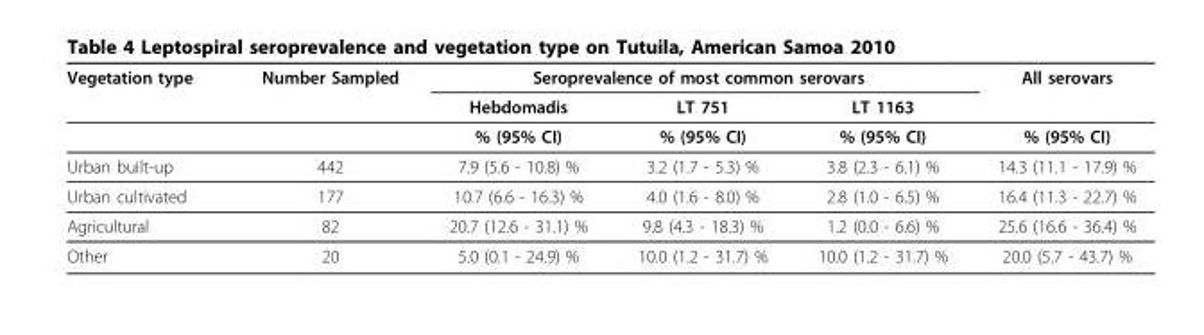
<table><thead><tr><td rowspan="2">Vegetation type</td><td rowspan="2">Number Sampled</td><td colspan="3">Seroprevalence of most common serovars</td><td rowspan="2">All serovars</td></tr><tr><td>Hebdomadis</td><td>LT 751</td><td>LT 1163</td></tr></thead><tbody><tr><td></td><td></td><td>% (95% CI)</td><td>% (95% CI)</td><td>% (95% CI)</td><td>% (95% CI)</td></tr><tr><td>Urban built-up</td><td>442</td><td>7.9 (5.6 - 10.8) %</td><td>3.2 (1.7 - 5.3) %</td><td>3.8 (2.3 - 6.1) %</td><td>14.3 (11.1 - 17.9) %</td></tr><tr><td>Urban cultivated</td><td>177</td><td>10.7 (6.6 - 16.3) %</td><td>4.0 (1.6 - 8.0) %</td><td>2.8 (1.0 - 6.5) %</td><td>16.4 (11.3 - 22.7) %</td></tr><tr><td>Agricultural</td><td>82</td><td>20.7 (12.6 - 31.1) %</td><td>9.8 (4.3 - 18.3) %</td><td>1.2 (0.0 - 6.6) %</td><td>25.6 (16.6 - 36.4) %</td></tr><tr><td>Other</td><td>20</td><td>5.0 (0.1 - 24.9) %</td><td>10.0 (1.2 - 31.7) %</td><td>10.0 (1.2 - 31.7) %</td><td>20.0 (5.7 - 43.7) %</td></tr></tbody></table>